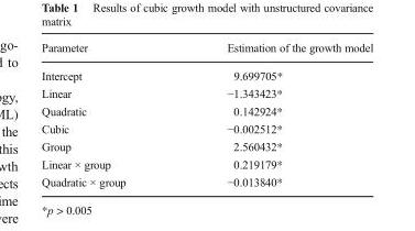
<table><thead><tr><td>Parameter</td><td>Estimation of the growth model</td></tr></thead><tbody><tr><td>Intercept</td><td>9.699705*</td></tr><tr><td>Linear</td><td>−1.343423*</td></tr><tr><td>Quadratic</td><td>0.142924*</td></tr><tr><td>Cubic</td><td>−0.002512*</td></tr><tr><td>Group</td><td>2.560432*</td></tr><tr><td>Linear × group</td><td>0.219179*</td></tr><tr><td>Quadratic × group</td><td>−0.013840*</td></tr></tbody></table>